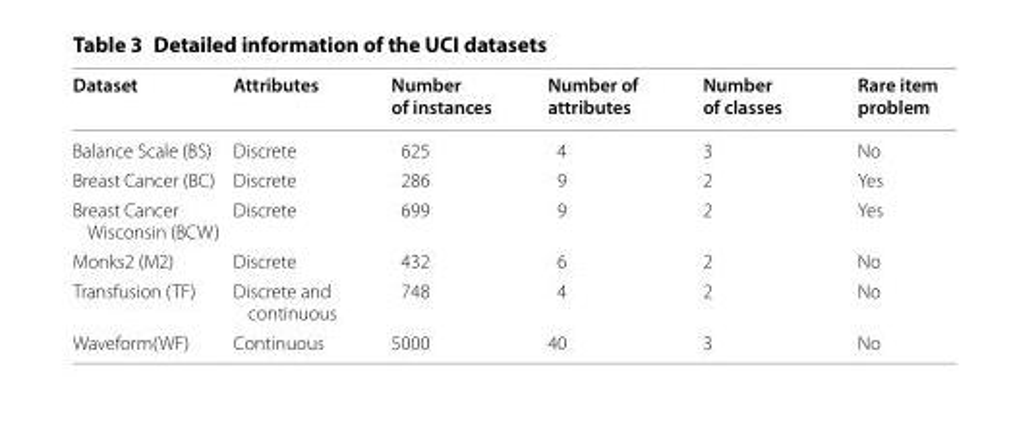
<table><thead><tr><td>Dataset</td><td>Attributes</td><td>Number of instances</td><td>Number of attributes</td><td>Number of classes</td><td>Rare item problem</td></tr></thead><tbody><tr><td>Balance Scale (BS)</td><td>Discrete</td><td>625</td><td>4</td><td>3</td><td>No</td></tr><tr><td>Breast Cancer (BC)</td><td>Discrete</td><td>286</td><td>9</td><td>2</td><td>Yes</td></tr><tr><td>Breast Cancer Wisconsin (BCW)</td><td>Discrete</td><td>699</td><td>9</td><td>2</td><td>Yes</td></tr><tr><td>Monks2 (M2)</td><td>Discrete</td><td>432</td><td>6</td><td>2</td><td>No</td></tr><tr><td>Transfusion (TF)</td><td>Discrete and continuous</td><td>748</td><td>4</td><td>2</td><td>No</td></tr><tr><td>Waveform(WF)</td><td>Continuous</td><td>5000</td><td>40</td><td>3</td><td>No</td></tr></tbody></table>